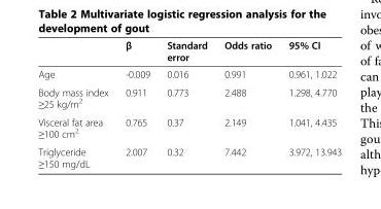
<table><thead><tr><td></td><td>β</td><td>Standard error</td><td>Odds ratio</td><td>95% CI</td></tr></thead><tbody><tr><td>Age</td><td>-0.009</td><td>0.016</td><td>0.991</td><td>0.961, 1.022</td></tr><tr><td>Body mass index ≥25 kg/m<sup>2</sup></td><td>0.911</td><td>0.773</td><td>2.488</td><td>1.298, 4.770</td></tr><tr><td>Visceral fat area ≥100 cm<sup>2</sup></td><td>0.765</td><td>0.37</td><td>2.149</td><td>1.041, 4.435</td></tr><tr><td>Triglyceride ≥150 mg/dL</td><td>2.007</td><td>0.32</td><td>7.442</td><td>3.972, 13.943</td></tr></tbody></table>